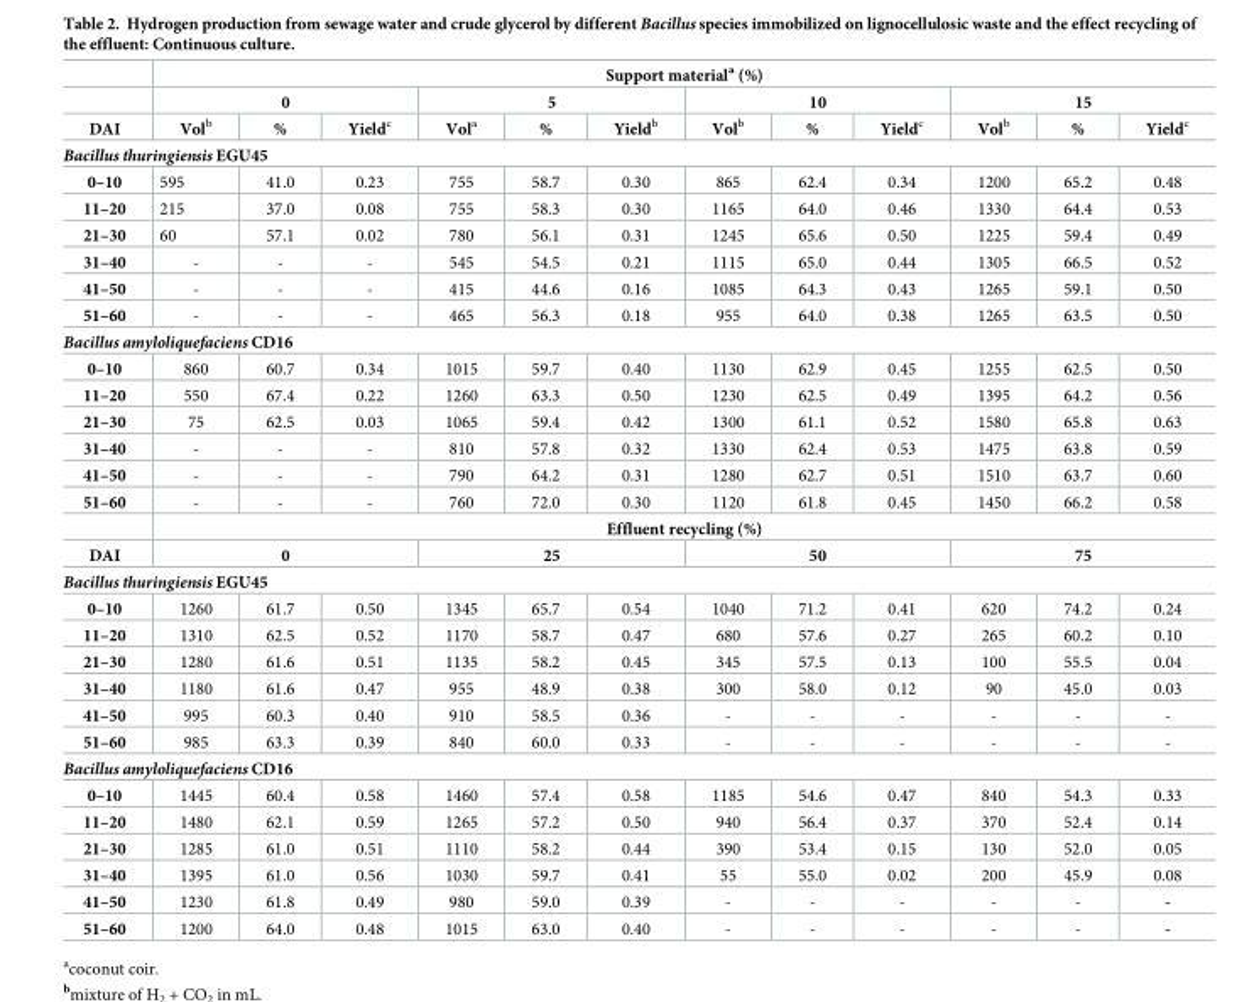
<table><thead><tr><td rowspan="3">DAI</td><td colspan="12">Support material<sup>a</sup> (%)</td></tr><tr><td colspan="3">0</td><td colspan="3">5</td><td colspan="3">10</td><td colspan="3">15</td></tr><tr><td>Vol<sup>b</sup></td><td>%</td><td>Yield<sup>c</sup></td><td>Vol<sup>a</sup></td><td>%</td><td>Yield<sup>b</sup></td><td>Vol<sup>b</sup></td><td>%</td><td>Yield<sup>c</sup></td><td>Vol<sup>b</sup></td><td>%</td><td>Yield<sup>c</sup></td></tr></thead><tbody><tr><td colspan="13">Bacillus thuringiensis EGU45</td></tr><tr><td>0–10</td><td>595</td><td>41.0</td><td>0.23</td><td>755</td><td>58.7</td><td>0.30</td><td>865</td><td>62.4</td><td>0.34</td><td>1200</td><td>65.2</td><td>0.48</td></tr><tr><td>11–20</td><td>215</td><td>37.0</td><td>0.08</td><td>755</td><td>58.3</td><td>0.30</td><td>1165</td><td>64.0</td><td>0.46</td><td>1330</td><td>64.4</td><td>0.53</td></tr><tr><td>21–30</td><td>60</td><td>57.1</td><td>0.02</td><td>780</td><td>56.1</td><td>0.31</td><td>1245</td><td>65.6</td><td>0.50</td><td>1225</td><td>59.4</td><td>0.49</td></tr><tr><td>31–40</td><td>-</td><td>-</td><td>-</td><td>545</td><td>54.5</td><td>0.21</td><td>1115</td><td>65.0</td><td>0.44</td><td>1305</td><td>66.5</td><td>0.52</td></tr><tr><td>41–50</td><td>-</td><td>-</td><td>-</td><td>415</td><td>44.6</td><td>0.16</td><td>1085</td><td>64.3</td><td>0.43</td><td>1265</td><td>59.1</td><td>0.50</td></tr><tr><td>51–60</td><td>-</td><td>-</td><td>-</td><td>465</td><td>56.3</td><td>0.18</td><td>955</td><td>64.0</td><td>0.38</td><td>1265</td><td>63.5</td><td>0.50</td></tr><tr><td colspan="13">Bacillus amyloliquefaciens CD16</td></tr><tr><td>0–10</td><td>860</td><td>60.7</td><td>0.34</td><td>1015</td><td>59.7</td><td>0.40</td><td>1130</td><td>62.9</td><td>0.45</td><td>1255</td><td>62.5</td><td>0.50</td></tr><tr><td>11–20</td><td>550</td><td>67.4</td><td>0.22</td><td>1260</td><td>63.3</td><td>0.50</td><td>1230</td><td>62.5</td><td>0.49</td><td>1395</td><td>64.2</td><td>0.56</td></tr><tr><td>21–30</td><td>75</td><td>62.5</td><td>0.03</td><td>1065</td><td>59.4</td><td>0.42</td><td>1300</td><td>61.1</td><td>0.52</td><td>1580</td><td>65.8</td><td>0.63</td></tr><tr><td>31–40</td><td>-</td><td>-</td><td>-</td><td>810</td><td>57.8</td><td>0.32</td><td>1330</td><td>62.4</td><td>0.53</td><td>1475</td><td>63.8</td><td>0.59</td></tr><tr><td>41–50</td><td>-</td><td>-</td><td>-</td><td>790</td><td>64.2</td><td>0.31</td><td>1280</td><td>62.7</td><td>0.51</td><td>1510</td><td>63.7</td><td>0.60</td></tr><tr><td rowspan="2">51–60</td><td>-</td><td>-</td><td>-</td><td>760</td><td>72.0</td><td>0.30</td><td>1120</td><td>61.8</td><td>0.45</td><td>1450</td><td>66.2</td><td>0.58</td></tr><tr><td colspan="12">Effluent recycling (%)</td></tr><tr><td>DAI</td><td colspan="3">0</td><td colspan="3">25</td><td colspan="3">50</td><td colspan="3">75</td></tr><tr><td colspan="13">Bacillus thuringiensis EGU45</td></tr><tr><td>0–10</td><td>1260</td><td>61.7</td><td>0.50</td><td>1345</td><td>65.7</td><td>0.54</td><td>1040</td><td>71.2</td><td>0.41</td><td>620</td><td>74.2</td><td>0.24</td></tr><tr><td>11–20</td><td>1310</td><td>62.5</td><td>0.52</td><td>1170</td><td>58.7</td><td>0.47</td><td>680</td><td>57.6</td><td>0.27</td><td>265</td><td>60.2</td><td>0.10</td></tr><tr><td>21–30</td><td>1280</td><td>61.6</td><td>0.51</td><td>1135</td><td>58.2</td><td>0.45</td><td>345</td><td>57.5</td><td>0.13</td><td>100</td><td>55.5</td><td>0.04</td></tr><tr><td>31–40</td><td>1180</td><td>61.6</td><td>0.47</td><td>955</td><td>48.9</td><td>0.38</td><td>300</td><td>58.0</td><td>0.12</td><td>90</td><td>45.0</td><td>0.03</td></tr><tr><td>41–50</td><td>995</td><td>60.3</td><td>0.40</td><td>910</td><td>58.5</td><td>0.36</td><td>-</td><td>-</td><td>-</td><td>-</td><td>-</td><td>-</td></tr><tr><td>51–60</td><td>985</td><td>63.3</td><td>0.39</td><td>840</td><td>60.0</td><td>0.33</td><td>-</td><td>-</td><td>-</td><td>-</td><td>-</td><td>-</td></tr><tr><td colspan="13">Bacillus amyloliquefaciens CD16</td></tr><tr><td>0–10</td><td>1445</td><td>60.4</td><td>0.58</td><td>1460</td><td>57.4</td><td>0.58</td><td>1185</td><td>54.6</td><td>0.47</td><td>840</td><td>54.3</td><td>0.33</td></tr><tr><td>11–20</td><td>1480</td><td>62.1</td><td>0.59</td><td>1265</td><td>57.2</td><td>0.50</td><td>940</td><td>56.4</td><td>0.37</td><td>370</td><td>52.4</td><td>0.14</td></tr><tr><td>21–30</td><td>1285</td><td>61.0</td><td>0.51</td><td>1110</td><td>58.2</td><td>0.44</td><td>390</td><td>53.4</td><td>0.15</td><td>130</td><td>52.0</td><td>0.05</td></tr><tr><td>31–40</td><td>1395</td><td>61.0</td><td>0.56</td><td>1030</td><td>59.7</td><td>0.41</td><td>55</td><td>55.0</td><td>0.02</td><td>200</td><td>45.9</td><td>0.08</td></tr><tr><td>41–50</td><td>1230</td><td>61.8</td><td>0.49</td><td>980</td><td>59.0</td><td>0.39</td><td>-</td><td>-</td><td>-</td><td>-</td><td>-</td><td>-</td></tr><tr><td>51–60</td><td>1200</td><td>64.0</td><td>0.48</td><td>1015</td><td>63.0</td><td>0.40</td><td>-</td><td>-</td><td>-</td><td>-</td><td>-</td><td>-</td></tr></tbody></table>